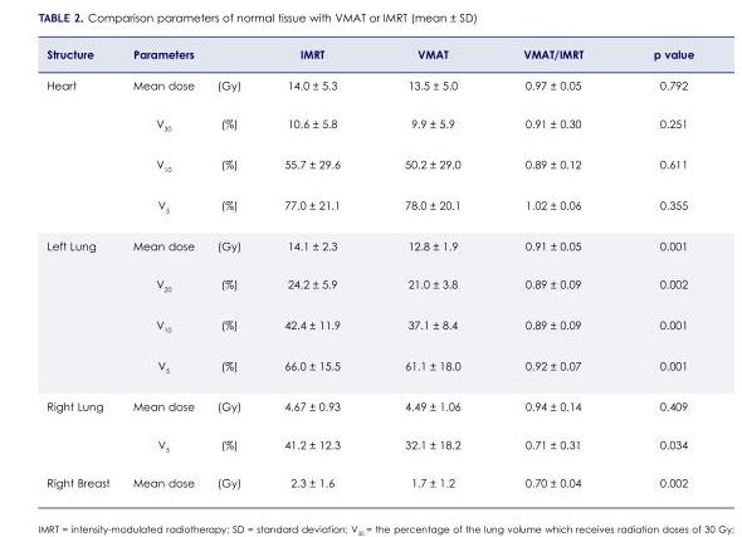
<table><thead><tr><td>Structure</td><td>Parameters</td><td></td><td>IMRT</td><td>VMAT</td><td>VMAT/IMRT</td><td>p value</td></tr></thead><tbody><tr><td rowspan="4">Heart</td><td>Mean dose</td><td>(Gy)</td><td>14.0 ± 5.3</td><td>13.5 ± 5.0</td><td>0.97 ± 0.05</td><td>0.792</td></tr><tr><td>V<sub>30</sub></td><td>(%)</td><td>10.6 ± 5.8</td><td>9.9 ± 5.9</td><td>0.91 ± 0.30</td><td>0.251</td></tr><tr><td>V<sub>10</sub></td><td>(%)</td><td>55.7 ± 29.6</td><td>50.2 ± 29.0</td><td>0.89 ± 0.12</td><td>0.611</td></tr><tr><td>V<sub>5</sub></td><td>(%)</td><td>77.0 ± 21.1</td><td>78.0 ± 20.1</td><td>1.02 ± 0.06</td><td>0.355</td></tr><tr><td rowspan="4">Left Lung</td><td>Mean dose</td><td>(Gy)</td><td>14.1 ± 2.3</td><td>12.8 ± 1.9</td><td>0.91 ± 0.05</td><td>0.001</td></tr><tr><td>V<sub>20</sub></td><td>(%)</td><td>24.2 ± 5.9</td><td>21.0 ± 3.8</td><td>0.89 ± 0.09</td><td>0.002</td></tr><tr><td>V<sub>10</sub></td><td>(%)</td><td>42.4 ± 11.9</td><td>37.1 ± 8.4</td><td>0.89 ± 0.09</td><td>0.001</td></tr><tr><td>V<sub>5</sub></td><td>(%)</td><td>66.0 ± 15.5</td><td>61.1 ± 18.0</td><td>0.92 ± 0.07</td><td>0.001</td></tr><tr><td rowspan="2">Right Lung</td><td>Mean dose</td><td>(Gy)</td><td>4.67 ± 0.93</td><td>4.49 ± 1.06</td><td>0.94 ± 0.14</td><td>0.409</td></tr><tr><td>V<sub>5</sub></td><td>(%)</td><td>41.2 ± 12.3</td><td>32.1 ± 18.2</td><td>0.71 ± 0.31</td><td>0.034</td></tr><tr><td>Right Breast</td><td>Mean dose</td><td>(Gy)</td><td>2.3 ± 1.6</td><td>1.7 ± 1.2</td><td>0.70 ± 0.04</td><td>0.002</td></tr></tbody></table>